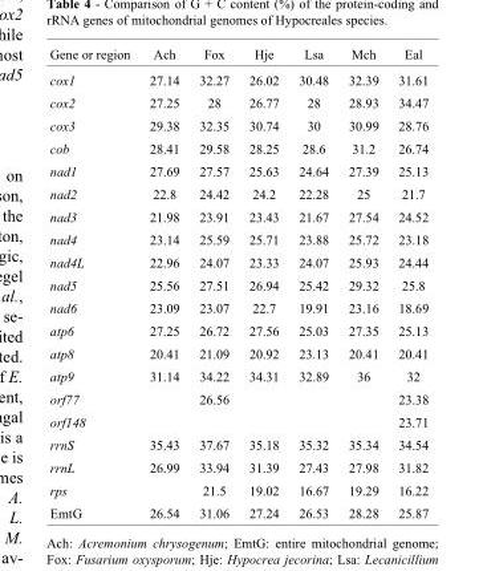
<table><thead><tr><td>Gene or region</td><td>Ach</td><td>Fox</td><td>Hje</td><td>Lsa</td><td>Mch</td><td>Eal</td></tr></thead><tbody><tr><td>cox1</td><td>27.14</td><td>32.27</td><td>26.02</td><td>30.48</td><td>32.39</td><td>31.61</td></tr><tr><td>cox2</td><td>27.25</td><td>28</td><td>26.77</td><td>28</td><td>28.93</td><td>34.47</td></tr><tr><td>cox3</td><td>29.38</td><td>32.35</td><td>30.74</td><td>30</td><td>30.99</td><td>28.76</td></tr><tr><td>cob</td><td>28.41</td><td>29.58</td><td>28.25</td><td>28.6</td><td>31.2</td><td>26.74</td></tr><tr><td>nad1</td><td>27.69</td><td>27.57</td><td>25.63</td><td>24.64</td><td>27.39</td><td>25.13</td></tr><tr><td>nad2</td><td>22.8</td><td>24.42</td><td>24.2</td><td>22.28</td><td>25</td><td>21.7</td></tr><tr><td>nad3</td><td>21.98</td><td>23.91</td><td>23.43</td><td>21.67</td><td>27.54</td><td>24.52</td></tr><tr><td>nad4</td><td>23.14</td><td>25.59</td><td>25.71</td><td>23.88</td><td>25.72</td><td>23.18</td></tr><tr><td>nad4L</td><td>22.96</td><td>24.07</td><td>23.33</td><td>24.07</td><td>25.93</td><td>24.44</td></tr><tr><td>nad5</td><td>25.56</td><td>27.51</td><td>26.94</td><td>25.42</td><td>29.32</td><td>25.8</td></tr><tr><td>nad6</td><td>23.09</td><td>23.07</td><td>22.7</td><td>19.91</td><td>23.16</td><td>18.69</td></tr><tr><td>atp6</td><td>27.25</td><td>26.72</td><td>27.56</td><td>25.03</td><td>27.35</td><td>25.13</td></tr><tr><td>atp8</td><td>20.41</td><td>21.09</td><td>20.92</td><td>23.13</td><td>20.41</td><td>20.41</td></tr><tr><td>atp9</td><td>31.14</td><td>34.22</td><td>34.31</td><td>32.89</td><td>36</td><td>32</td></tr><tr><td>orf77</td><td></td><td>26.56</td><td></td><td></td><td></td><td>23.38</td></tr><tr><td>orf148</td><td></td><td></td><td></td><td></td><td></td><td>23.71</td></tr><tr><td>rrnS</td><td>35.43</td><td>37.67</td><td>35.18</td><td>35.32</td><td>35.34</td><td>34.54</td></tr><tr><td>rrnL</td><td>26.99</td><td>33.94</td><td>31.39</td><td>27.43</td><td>27.98</td><td>31.82</td></tr><tr><td>rps</td><td></td><td>21.5</td><td>19.02</td><td>16.67</td><td>19.29</td><td>16.22</td></tr><tr><td>EmtG</td><td>26.54</td><td>31.06</td><td>27.24</td><td>26.53</td><td>28.28</td><td>25.87</td></tr></tbody></table>